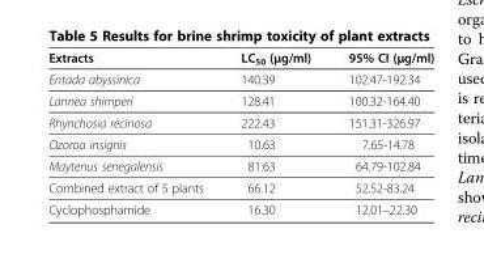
<table><thead><tr><td>Extracts</td><td>LC<sub>50</sub> (μg/ml)</td><td>95% CI (μg/ml)</td></tr></thead><tbody><tr><td>Entada abyssinica</td><td>140.39</td><td>102.47-192.34</td></tr><tr><td>Lannea shimperi</td><td>128.41</td><td>100.32-164.40</td></tr><tr><td>Rhynchosia recinosa</td><td>222.43</td><td>151.31-326.97</td></tr><tr><td>Ozoroa insignis</td><td>10.63</td><td>7.65-14.78</td></tr><tr><td>Maytenus senegalensis</td><td>81.63</td><td>64.79-102.84</td></tr><tr><td>Combined extract of 5 plants</td><td>66.12</td><td>52.52-83.24</td></tr><tr><td>Cyclophosphamide</td><td>16.30</td><td>12.01–22.30</td></tr></tbody></table>